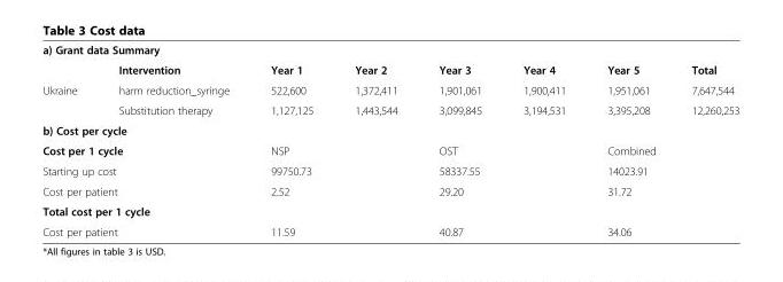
<table><tbody><tr><td colspan="8">a) Grant data Summary</td></tr><tr><td></td><td>Intervention</td><td>Year 1</td><td>Year 2</td><td>Year 3</td><td>Year 4</td><td>Year 5</td><td>Total</td></tr><tr><td rowspan="2">Ukraine</td><td>harm reduction_syringe</td><td>522,600</td><td>1,372,411</td><td>1,901,061</td><td>1,900,411</td><td>1,951,061</td><td>7,647,544</td></tr><tr><td>Substitution therapy</td><td>1,127,125</td><td>1,443,544</td><td>3,099,845</td><td>3,194,531</td><td>3,395,208</td><td>12,260,253</td></tr><tr><td colspan="8">b) Cost per cycle</td></tr><tr><td colspan="2">Cost per 1 cycle</td><td colspan="2">NSP</td><td colspan="2">OST</td><td colspan="2">Combined</td></tr><tr><td colspan="2">Starting up cost</td><td colspan="2">99750.73</td><td colspan="2">58337.55</td><td colspan="2">14023.91</td></tr><tr><td colspan="2">Cost per patient</td><td colspan="2">2.52</td><td colspan="2">29.20</td><td colspan="2">31.72</td></tr><tr><td colspan="8">Total cost per 1 cycle</td></tr><tr><td colspan="2">Cost per patient</td><td colspan="2">11.59</td><td colspan="2">40.87</td><td colspan="2">34.06</td></tr></tbody></table>